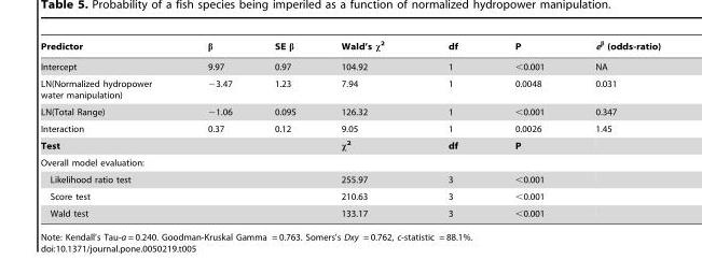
<table><thead><tr><td>Predictor</td><td>β</td><td>SE β</td><td>Wald’s χ<sup>2</sup></td><td>df</td><td>P</td><td>e<sup>β</sup> (odds-ratio)</td></tr></thead><tbody><tr><td>Intercept</td><td>9.97</td><td>0.97</td><td>104.92</td><td>1</td><td>&lt;0.001</td><td>NA</td></tr><tr><td>LN(Normalized hydropower water manipulation)</td><td>−3.47</td><td>1.23</td><td>7.94</td><td>1</td><td>0.0048</td><td>0.031</td></tr><tr><td>LN(Total Range)</td><td>−1.06</td><td>0.095</td><td>126.32</td><td>1</td><td>&lt;0.001</td><td>0.347</td></tr><tr><td>Interaction</td><td>0.37</td><td>0.12</td><td>9.05</td><td>1</td><td>0.0026</td><td>1.45</td></tr><tr><td>Test</td><td></td><td></td><td>χ<sup>2</sup></td><td>df</td><td>P</td><td></td></tr><tr><td colspan="7">Overall model evaluation:</td></tr><tr><td>Likelihood ratio test</td><td></td><td></td><td>255.97</td><td>3</td><td>&lt;0.001</td><td></td></tr><tr><td>Score test</td><td></td><td></td><td>210.63</td><td>3</td><td>&lt;0.001</td><td></td></tr><tr><td>Wald test</td><td></td><td></td><td>133.17</td><td>3</td><td>&lt;0.001</td><td></td></tr></tbody></table>